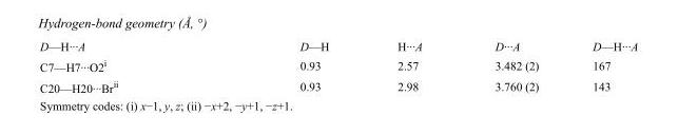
<table><tbody><tr><td>D—H···A</td><td>D—H</td><td>H···A</td><td>D···A</td><td>D—H···A</td></tr><tr><td>C7—H7···O2<sup>i</sup></td><td>0.93</td><td>2.57</td><td>3.482 (2)</td><td>167</td></tr><tr><td>C20—H20···Br<sup>ii</sup></td><td>0.93</td><td>2.98</td><td>3.760 (2)</td><td>143</td></tr></tbody></table>